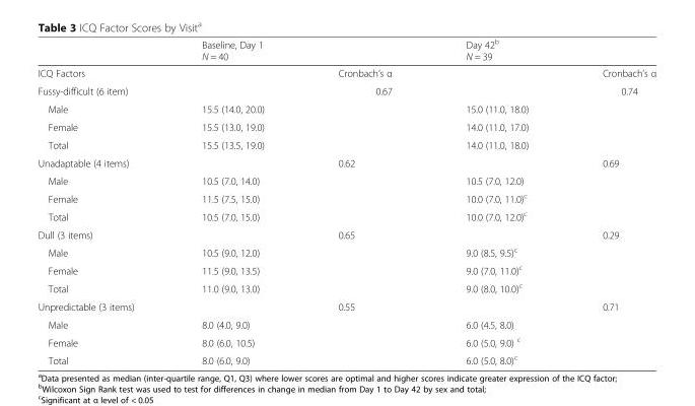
<table><thead><tr><td rowspan="2">ICQ Factors</td><td colspan="2">Baseline, Day 1 N = 40</td><td colspan="2">Day 42<sup>b</sup> N = 39</td></tr><tr><td></td><td>Cronbach’s α</td><td></td><td>Cronbach’s α</td></tr></thead><tbody><tr><td>Fussy-difficult (6 item)</td><td></td><td>0.67</td><td></td><td>0.74</td></tr><tr><td>Male</td><td>15.5 (14.0, 20.0)</td><td></td><td>15.0 (11.0, 18.0)</td><td></td></tr><tr><td>Female</td><td>15.5 (13.0, 19.0)</td><td></td><td>14.0 (11.0, 17.0)</td><td></td></tr><tr><td>Total</td><td>15.5 (13.5, 19.0)</td><td></td><td>14.0 (11.0, 18.0)</td><td></td></tr><tr><td colspan="2">Unadaptable (4 items)</td><td colspan="2">0.62</td><td>0.69</td></tr><tr><td>Male</td><td>10.5 (7.0, 14.0)</td><td></td><td>10.5 (7.0, 12.0)</td><td></td></tr><tr><td>Female</td><td>11.5 (7.5, 15.0)</td><td></td><td>10.0 (7.0, 11.0)<sup>c</sup></td><td></td></tr><tr><td>Total</td><td>10.5 (7.0, 15.0)</td><td></td><td>10.0 (7.0, 12.0)<sup>c</sup></td><td></td></tr><tr><td colspan="2">Dull (3 items)</td><td colspan="2">0.65</td><td>0.29</td></tr><tr><td>Male</td><td>10.5 (9.0, 12.0)</td><td></td><td>9.0 (8.5, 9.5)<sup>c</sup></td><td></td></tr><tr><td>Female</td><td>11.5 (9.0, 13.5)</td><td></td><td>9.0 (7.0, 11.0)<sup>c</sup></td><td></td></tr><tr><td>Total</td><td>11.0 (9.0, 13.0)</td><td></td><td>9.0 (8.0, 10.0)<sup>c</sup></td><td></td></tr><tr><td colspan="2">Unpredictable (3 items)</td><td colspan="2">0.55</td><td>0.71</td></tr><tr><td>Male</td><td>8.0 (4.0, 9.0)</td><td></td><td>6.0 (4.5, 8.0)</td><td></td></tr><tr><td>Female</td><td>8.0 (6.0, 10.5)</td><td></td><td>6.0 (5.0, 9.0) <sup>c</sup></td><td></td></tr><tr><td>Total</td><td>8.0 (6.0, 9.0)</td><td></td><td>6.0 (5.0, 8.0)<sup>c</sup></td><td></td></tr></tbody></table>